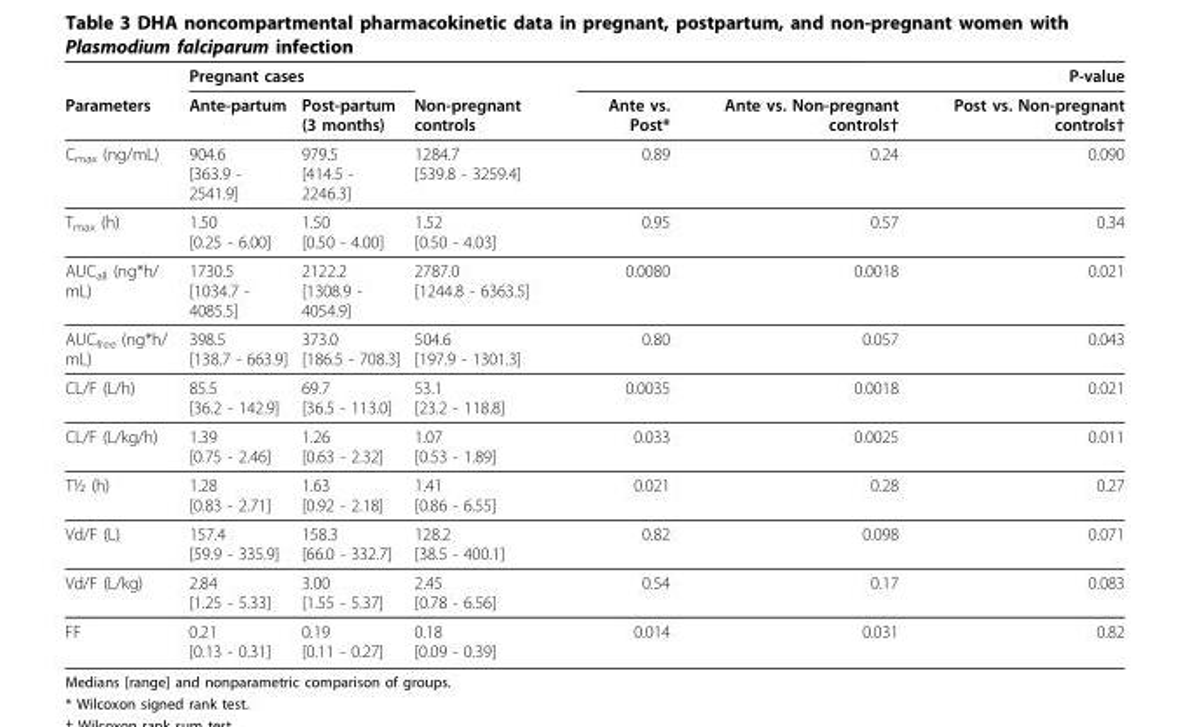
<table><thead><tr><td rowspan="2">Parameters</td><td colspan="2">Pregnant cases</td><td rowspan="2">Non-pregnant controls</td><td colspan="3">P-value</td></tr><tr><td>Ante-partum</td><td>Post-partum (3 months)</td><td>Ante vs. Post*</td><td>Ante vs. Non-pregnant controls†</td><td>Post vs. Non-pregnant controls†</td></tr></thead><tbody><tr><td>C<sub>max</sub> (ng/mL)</td><td>904.6 [363.9 - 2541.9]</td><td>979.5 [414.5 - 2246.3]</td><td>1284.7 [539.8 - 3259.4]</td><td>0.89</td><td>0.24</td><td>0.090</td></tr><tr><td>T<sub>max</sub> (h)</td><td>1.50 [0.25 - 6.00]</td><td>1.50 [0.50 - 4.00]</td><td>1.52 [0.50 - 4.03]</td><td>0.95</td><td>0.57</td><td>0.34</td></tr><tr><td>AUC<sub>all</sub> (ng*h/ mL)</td><td>1730.5 [1034.7 - 4085.5]</td><td>2122.2 [1308.9 - 4054.9]</td><td>2787.0 [1244.8 - 6363.5]</td><td>0.0080</td><td>0.0018</td><td>0.021</td></tr><tr><td>AUC<sub>free</sub> (ng*h/ mL)</td><td>398.5 [138.7 - 663.9]</td><td>373.0 [186.5 - 708.3]</td><td>504.6 [197.9 - 1301.3]</td><td>0.80</td><td>0.057</td><td>0.043</td></tr><tr><td>CL/F (L/h)</td><td>85.5 [36.2 - 142.9]</td><td>69.7 [36.5 - 113.0]</td><td>53.1 [23.2 - 118.8]</td><td>0.0035</td><td>0.0018</td><td>0.021</td></tr><tr><td>CL/F (L/kg/h)</td><td>1.39 [0.75 - 2.46]</td><td>1.26 [0.63 - 2.32]</td><td>1.07 [0.53 - 1.89]</td><td>0.033</td><td>0.0025</td><td>0.011</td></tr><tr><td>T½ (h)</td><td>1.28 [0.83 - 2.71]</td><td>1.63 [0.92 - 2.18]</td><td>1.41 [0.86 - 6.55]</td><td>0.021</td><td>0.28</td><td>0.27</td></tr><tr><td>Vd/F (L)</td><td>157.4 [59.9 - 335.9]</td><td>158.3 [66.0 - 332.7]</td><td>128.2 [38.5 - 400.1]</td><td>0.82</td><td>0.098</td><td>0.071</td></tr><tr><td>Vd/F (L/kg)</td><td>2.84 [1.25 - 5.33]</td><td>3.00 [1.55 - 5.37]</td><td>2.45 [0.78 - 6.56]</td><td>0.54</td><td>0.17</td><td>0.083</td></tr><tr><td>FF</td><td>0.21 [0.13 - 0.31]</td><td>0.19 [0.11 - 0.27]</td><td>0.18 [0.09 - 0.39]</td><td>0.014</td><td>0.031</td><td>0.82</td></tr></tbody></table>